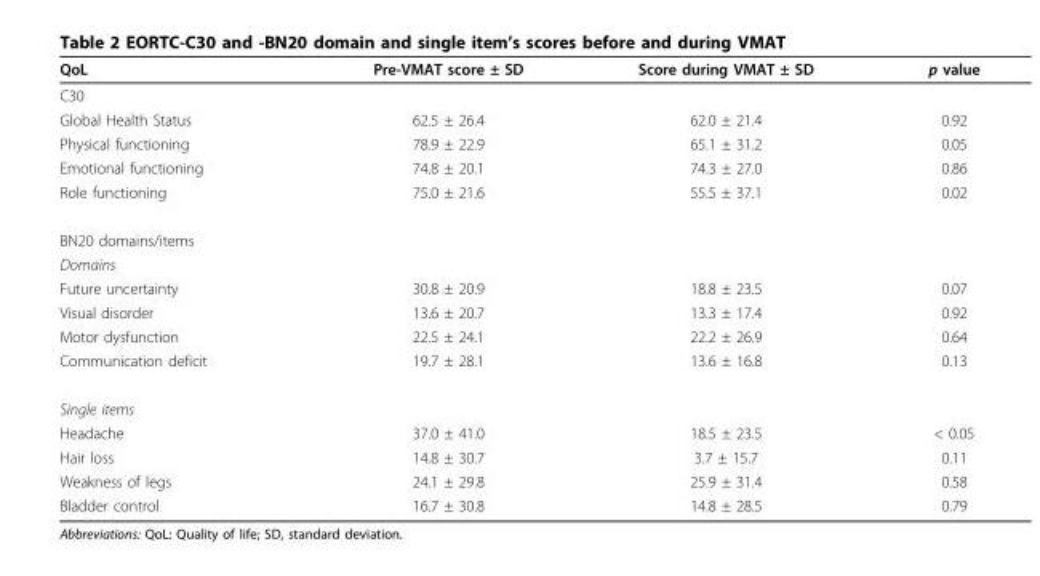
<table><thead><tr><td>QoL</td><td>Pre-VMAT score ± SD</td><td>Score during VMAT ± SD</td><td>p value</td></tr></thead><tbody><tr><td colspan="4">C30</td></tr><tr><td>Global Health Status</td><td>62.5 ± 26.4</td><td>62.0 ± 21.4</td><td>0.92</td></tr><tr><td>Physical functioning</td><td>78.9 ± 22.9</td><td>65.1 ± 31.2</td><td>0.05</td></tr><tr><td>Emotional functioning</td><td>74.8 ± 20.1</td><td>74.3 ± 27.0</td><td>0.86</td></tr><tr><td>Role functioning</td><td>75.0 ± 21.6</td><td>55.5 ± 37.1</td><td>0.02</td></tr><tr><td colspan="4">BN20 domains/items</td></tr><tr><td colspan="4">Domains</td></tr><tr><td>Future uncertainty</td><td>30.8 ± 20.9</td><td>18.8 ± 23.5</td><td>0.07</td></tr><tr><td>Visual disorder</td><td>13.6 ± 20.7</td><td>13.3 ± 17.4</td><td>0.92</td></tr><tr><td>Motor dysfunction</td><td>22.5 ± 24.1</td><td>22.2 ± 26.9</td><td>0.64</td></tr><tr><td>Communication deficit</td><td>19.7 ± 28.1</td><td>13.6 ± 16.8</td><td>0.13</td></tr><tr><td colspan="4">Single items</td></tr><tr><td>Headache</td><td>37.0 ± 41.0</td><td>18.5 ± 23.5</td><td>&lt; 0.05</td></tr><tr><td>Hair loss</td><td>14.8 ± 30.7</td><td>3.7 ± 15.7</td><td>0.11</td></tr><tr><td>Weakness of legs</td><td>24.1 ± 29.8</td><td>25.9 ± 31.4</td><td>0.58</td></tr><tr><td>Bladder control</td><td>16.7 ± 30.8</td><td>14.8 ± 28.5</td><td>0.79</td></tr></tbody></table>